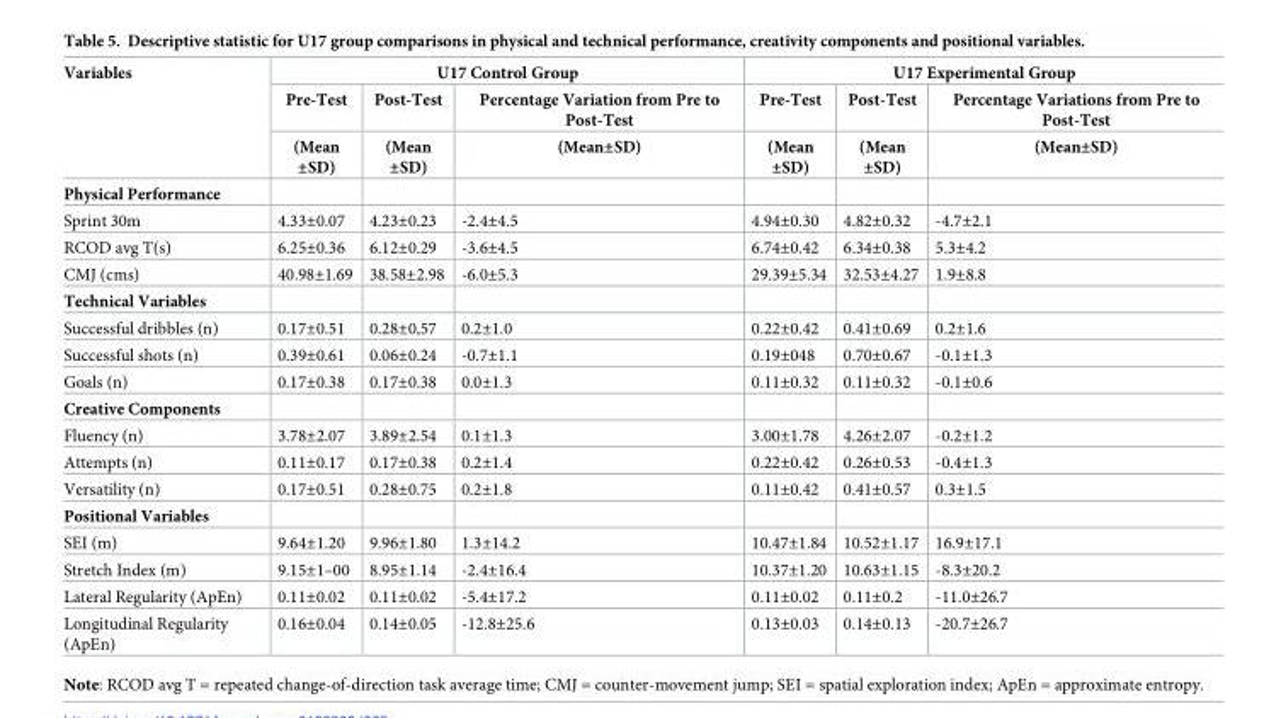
<table><thead><tr><td rowspan="3">Variables</td><td colspan="3">U17 Control Group</td><td colspan="3">U17 Experimental Group</td></tr><tr><td rowspan="2">Pre-Test (Mean ±SD)</td><td rowspan="2">Post-Test (Mean ±SD)</td><td rowspan="2">Percentage Variation from Pre to Post-Test (Mean±SD)</td><td rowspan="2">Pre-Test (Mean ±SD)</td><td rowspan="2">Post-Test (Mean ±SD)</td><td rowspan="2">Percentage Variations from Pre to Post-Test (Mean±SD)</td></tr><tr></tr></thead><tbody><tr><td colspan="7">Physical Performance</td></tr><tr><td>Sprint 30m</td><td>4.33±0.07</td><td>4.23±0.23</td><td>-2.4±4.5</td><td>4.94±0.30</td><td>4.82±0.32</td><td>-4.7±2.1</td></tr><tr><td>RCOD avg T(s)</td><td>6.25±0.36</td><td>6.12±0.29</td><td>-3.6±4.5</td><td>6.74±0.42</td><td>6.34±0.38</td><td>5.3±4.2</td></tr><tr><td>CMJ (cms)</td><td>40.98±1.69</td><td>38.58±2.98</td><td>-6.0±5.3</td><td>29.39±5.34</td><td>32.53±4.27</td><td>1.9±8.8</td></tr><tr><td colspan="7">Technical Variables</td></tr><tr><td>Successful dribbles (n)</td><td>0.17±0.51</td><td>0.28±0,57</td><td>0.2±1.0</td><td>0.22±0.42</td><td>0.41±0.69</td><td>0.2±1.6</td></tr><tr><td>Successful shots (n)</td><td>0.39±0.61</td><td>0.06±0.24</td><td>-0.7±1.1</td><td>0.19±048</td><td>0.70±0.67</td><td>-0.1±1.3</td></tr><tr><td>Goals (n)</td><td>0.17±0.38</td><td>0.17±0.38</td><td>0.0±1.3</td><td>0.11±0.32</td><td>0.11±0.32</td><td>-0.1±0.6</td></tr><tr><td colspan="7">Creative Components</td></tr><tr><td>Fluency (n)</td><td>3.78±2.07</td><td>3.89±2.54</td><td>0.1±1.3</td><td>3.00±1.78</td><td>4.26±2.07</td><td>-0.2±1.2</td></tr><tr><td>Attempts (n)</td><td>0.11±0.17</td><td>0.17±0.38</td><td>0.2±1.4</td><td>0.22±0.42</td><td>0.26±0.53</td><td>-0.4±1.3</td></tr><tr><td>Versatility (n)</td><td>0.17±0.51</td><td>0.28±0.75</td><td>0.2±1.8</td><td>0.11±0.42</td><td>0.41±0.57</td><td>0.3±1.5</td></tr><tr><td colspan="7">Positional Variables</td></tr><tr><td>SEI (m)</td><td>9.64±1.20</td><td>9.96±1.80</td><td>1.3±14.2</td><td>10.47±1.84</td><td>10.52±1.17</td><td>16.9±17.1</td></tr><tr><td>Stretch Index (m)</td><td>9.15±1–00</td><td>8.95±1.14</td><td>-2.4±16.4</td><td>10.37±1.20</td><td>10.63±1.15</td><td>-8.3±20.2</td></tr><tr><td>Lateral Regularity (ApEn)</td><td>0.11±0.02</td><td>0.11±0.02</td><td>-5.4±17.2</td><td>0.11±0.02</td><td>0.11±0.2</td><td>-11.0±26.7</td></tr><tr><td>Longitudinal Regularity (ApEn)</td><td>0.16±0.04</td><td>0.14±0.05</td><td>-12.8±25.6</td><td>0.13±0.03</td><td>0.14±0.13</td><td>-20.7±26.7</td></tr></tbody></table>